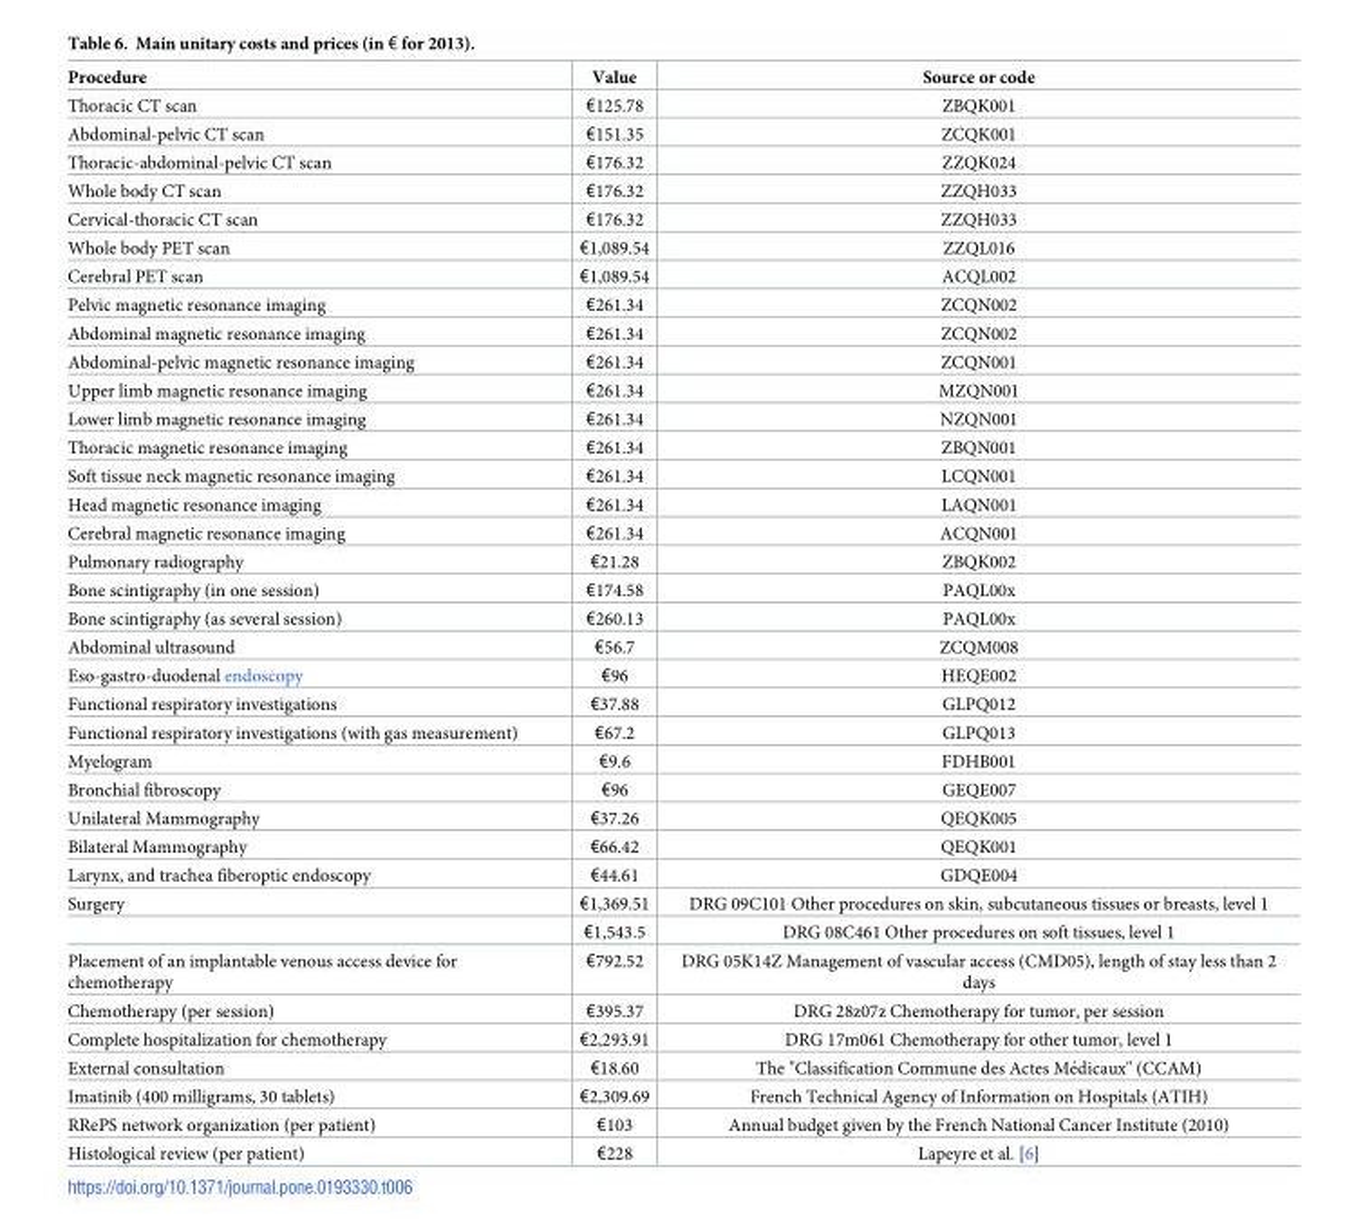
<table><thead><tr><td>Procedure</td><td>Value</td><td>Source or code</td></tr></thead><tbody><tr><td>Thoracic CT scan</td><td>€125.78</td><td>ZBQK001</td></tr><tr><td>Abdominal-pelvic CT scan</td><td>€151.35</td><td>ZCQK001</td></tr><tr><td>Thoracic-abdominal-pelvic CT scan</td><td>€176.32</td><td>ZZQK024</td></tr><tr><td>Whole body CT scan</td><td>€176.32</td><td>ZZQH033</td></tr><tr><td>Cervical-thoracic CT scan</td><td>€176.32</td><td>ZZQH033</td></tr><tr><td>Whole body PET scan</td><td>€1,089.54</td><td>ZZQL016</td></tr><tr><td>Cerebral PET scan</td><td>€1,089.54</td><td>ACQL002</td></tr><tr><td>Pelvic magnetic resonance imaging</td><td>€261.34</td><td>ZCQN002</td></tr><tr><td>Abdominal magnetic resonance imaging</td><td>€261.34</td><td>ZCQN002</td></tr><tr><td>Abdominal-pelvic magnetic resonance imaging</td><td>€261.34</td><td>ZCQN001</td></tr><tr><td>Upper limb magnetic resonance imaging</td><td>€261.34</td><td>MZQN001</td></tr><tr><td>Lower limb magnetic resonance imaging</td><td>€261.34</td><td>NZQN001</td></tr><tr><td>Thoracic magnetic resonance imaging</td><td>€261.34</td><td>ZBQN001</td></tr><tr><td>Soft tissue neck magnetic resonance imaging</td><td>€261.34</td><td>LCQN001</td></tr><tr><td>Head magnetic resonance imaging</td><td>€261.34</td><td>LAQN001</td></tr><tr><td>Cerebral magnetic resonance imaging</td><td>€261.34</td><td>ACQN001</td></tr><tr><td>Pulmonary radiography</td><td>€21.28</td><td>ZBQK002</td></tr><tr><td>Bone scintigraphy (in one session)</td><td>€174.58</td><td>PAQL00x</td></tr><tr><td>Bone scintigraphy (as several session)</td><td>€260.13</td><td>PAQL00x</td></tr><tr><td>Abdominal ultrasound</td><td>€56.7</td><td>ZCQM008</td></tr><tr><td>Eso-gastro-duodenal endoscopy</td><td>€96</td><td>HEQE002</td></tr><tr><td>Functional respiratory investigations</td><td>€37.88</td><td>GLPQ012</td></tr><tr><td>Functional respiratory investigations (with gas measurement)</td><td>€67.2</td><td>GLPQ013</td></tr><tr><td>Myelogram</td><td>€9.6</td><td>FDHB001</td></tr><tr><td>Bronchial fibroscopy</td><td>€96</td><td>GEQE007</td></tr><tr><td>Unilateral Mammography</td><td>€37.26</td><td>QEQK005</td></tr><tr><td>Bilateral Mammography</td><td>€66.42</td><td>QEQK001</td></tr><tr><td>Larynx, and trachea fiberoptic endoscopy</td><td>€44.61</td><td>GDQE004</td></tr><tr><td rowspan="2">Surgery</td><td>€1,369.51</td><td>DRG 09C101 Other procedures on skin, subcutaneous tissues or breasts, level 1</td></tr><tr><td>€1,543.5</td><td>DRG 08C461 Other procedures on soft tissues, level 1</td></tr><tr><td>Placement of an implantable venous access device for chemotherapy</td><td>€792.52</td><td>DRG 05K14Z Management of vascular access (CMD05), length of stay less than 2 days</td></tr><tr><td>Chemotherapy (per session)</td><td>€395.37</td><td>DRG 28z07z Chemotherapy for tumor, per session</td></tr><tr><td>Complete hospitalization for chemotherapy</td><td>€2,293.91</td><td>DRG 17m061 Chemotherapy for other tumor, level 1</td></tr><tr><td>External consultation</td><td>€18.60</td><td>The &quot;Classification Commune des Actes Me´dicaux&quot; (CCAM)</td></tr><tr><td>Imatinib (400 milligrams, 30 tablets)</td><td>€2,309.69</td><td>French Technical Agency of Information on Hospitals (ATIH)</td></tr><tr><td>RRePS network organization (per patient)</td><td>€103</td><td>Annual budget given by the French National Cancer Institute (2010)</td></tr><tr><td>Histological review (per patient)</td><td>€228</td><td>Lapeyre et al. [6]</td></tr></tbody></table>